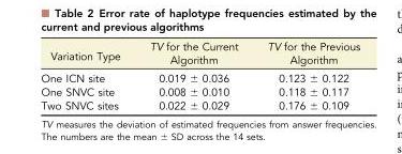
<table><thead><tr><td>Variation Type</td><td>TV for the Current Algorithm</td><td>TV for the Previous Algorithm</td></tr></thead><tbody><tr><td>One ICN site</td><td>0.019 ± 0.036</td><td>0.123 ± 0.122</td></tr><tr><td>One SNVC site</td><td>0.008 ± 0.010</td><td>0.118 ± 0.117</td></tr><tr><td>Two SNVC sites</td><td>0.022 ± 0.029</td><td>0.176 ± 0.109</td></tr></tbody></table>